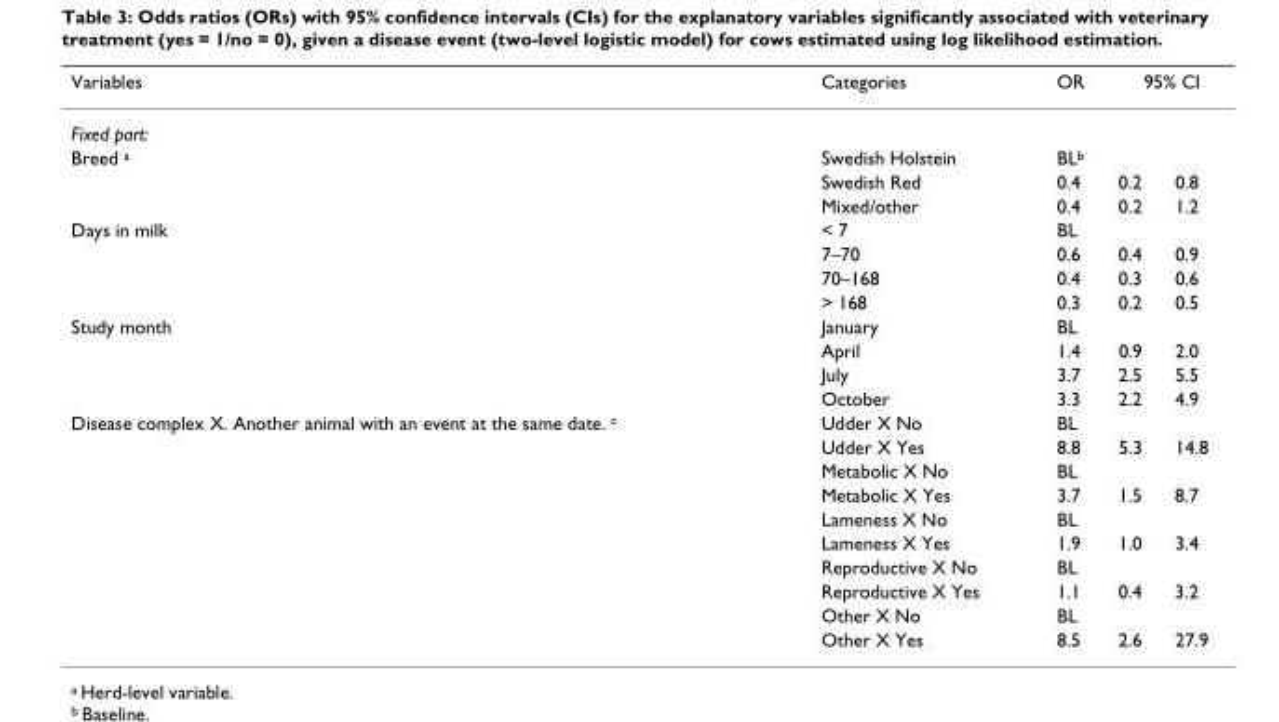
<table><thead><tr><td rowspan="2">Variables Fixed part:</td><td rowspan="2">Categories</td><td rowspan="2">OR</td><td colspan="2">95% CI</td></tr><tr><td></td><td></td></tr></thead><tbody><tr><td rowspan="3">Breed <sup>a</sup></td><td>Swedish Holstein</td><td>BL<sup>b</sup></td><td></td><td></td></tr><tr><td>Swedish Red</td><td>0.4</td><td>0.2</td><td>0.8</td></tr><tr><td>Mixed/other</td><td>0.4</td><td>0.2</td><td>1.2</td></tr><tr><td rowspan="4">Days in milk</td><td>&lt; 7</td><td>BL</td><td></td><td></td></tr><tr><td>7–70</td><td>0.6</td><td>0.4</td><td>0.9</td></tr><tr><td>70–168</td><td>0.4</td><td>0.3</td><td>0.6</td></tr><tr><td>&gt; 168</td><td>0.3</td><td>0.2</td><td>0.5</td></tr><tr><td rowspan="4">Study month</td><td>January</td><td>BL</td><td></td><td></td></tr><tr><td>April</td><td>1.4</td><td>0.9</td><td>2.0</td></tr><tr><td>July</td><td>3.7</td><td>2.5</td><td>5.5</td></tr><tr><td>October</td><td>3.3</td><td>2.2</td><td>4.9</td></tr><tr><td rowspan="10">Disease complex X. Another animal with an event at the same date. <sup>c</sup></td><td>Udder X No</td><td>BL</td><td></td><td></td></tr><tr><td>Udder X Yes</td><td>8.8</td><td>5.3</td><td>14.8</td></tr><tr><td>Metabolic X No</td><td>BL</td><td></td><td></td></tr><tr><td>Metabolic X Yes</td><td>3.7</td><td>1.5</td><td>8.7</td></tr><tr><td>Lameness X No</td><td>BL</td><td></td><td></td></tr><tr><td>Lameness X Yes</td><td>1.9</td><td>1.0</td><td>3.4</td></tr><tr><td>Reproductive X No</td><td>BL</td><td></td><td></td></tr><tr><td>Reproductive X Yes</td><td>1.1</td><td>0.4</td><td>3.2</td></tr><tr><td>Other X No</td><td>BL</td><td></td><td></td></tr><tr><td>Other X Yes</td><td>8.5</td><td>2.6</td><td>27.9</td></tr></tbody></table>